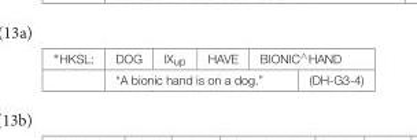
<table><tbody><tr><td rowspan="2">∗HKSL:</td><td>DOG</td><td>IX<sub>up</sub></td><td>HAVE</td><td colspan="2">BIONIC<sup>∧</sup>HAND</td></tr><tr><td colspan="4">“A bionic hand is on a dog.”</td><td>(DH-G3-4)</td></tr></tbody></table>